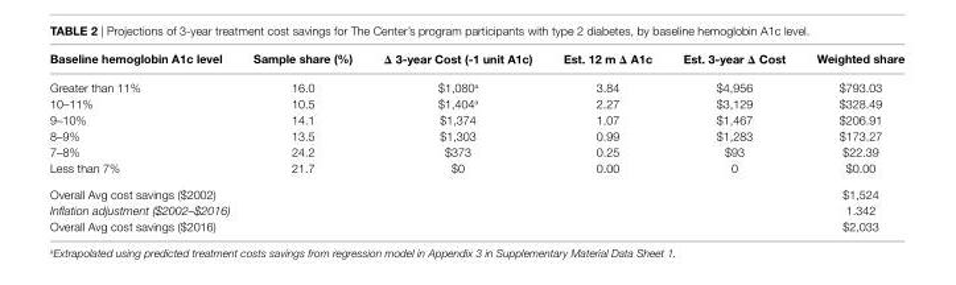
<table><thead><tr><td>Baseline hemoglobin a1c level</td><td>sample share (%)</td><td>Δ 3-year Cost (-1 unit a1c)</td><td>est. 12 m Δ a1c</td><td>est. 3-year Δ Cost</td><td>Weighted share</td></tr></thead><tbody><tr><td>Greater than 11%</td><td>16.0</td><td>$1,080<sup>a</sup></td><td>3.84</td><td>$4,956</td><td>$793.03</td></tr><tr><td>10–11%</td><td>10.5</td><td>$1,404<sup>a</sup></td><td>2.27</td><td>$3,129</td><td>$328.49</td></tr><tr><td>9–10%</td><td>14.1</td><td>$1,374</td><td>1.07</td><td>$1,467</td><td>$206.91</td></tr><tr><td>8–9%</td><td>13.5</td><td>$1,303</td><td>0.99</td><td>$1,283</td><td>$173.27</td></tr><tr><td>7–8%</td><td>24.2</td><td>$373</td><td>0.25</td><td>$93</td><td>$22.39</td></tr><tr><td>Less than 7%</td><td>21.7</td><td>$0</td><td>0.00</td><td>0</td><td>$0.00</td></tr><tr><td colspan="5">Overall Avg cost savings ($2002)</td><td>$1,524</td></tr><tr><td colspan="5">Inflation adjustment ($2002–$2016)</td><td>1.342</td></tr><tr><td colspan="5">Overall Avg cost savings ($2016)</td><td>$2,033</td></tr></tbody></table>